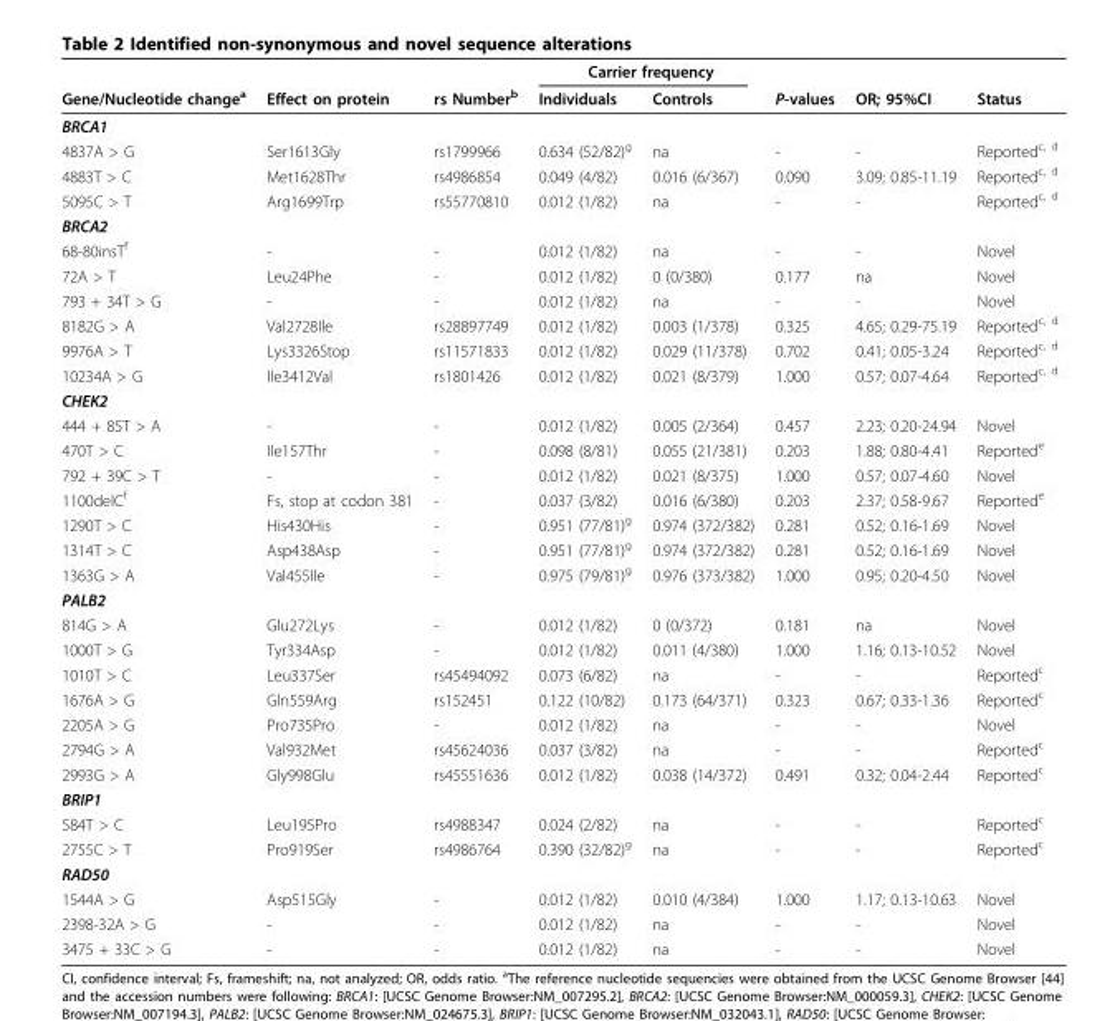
<table><thead><tr><td rowspan="2">Gene/Nucleotide change<sup>a</sup></td><td rowspan="2">Effect on protein</td><td rowspan="2">rs Number<sup>b</sup></td><td colspan="2">Carrier frequency</td><td rowspan="2">P-values</td><td rowspan="2">OR; 95%CI</td><td rowspan="2">Status</td></tr><tr><td>Individuals</td><td>Controls</td></tr></thead><tbody><tr><td colspan="8">BRCA1</td></tr><tr><td>4837A &gt; G</td><td>Ser1613Gly</td><td>rs1799966</td><td>0.634 (52/82)<sup>g</sup></td><td>na</td><td>-</td><td>-</td><td>Reported<sup>c, d</sup></td></tr><tr><td>4883T &gt; C</td><td>Met1628Thr</td><td>rs4986854</td><td>0.049 (4/82)</td><td>0.016 (6/367)</td><td>0.090</td><td>3.09; 0.85-11.19</td><td>Reported<sup>c, d</sup></td></tr><tr><td>5095C &gt; T</td><td>Arg1699Trp</td><td>rs55770810</td><td>0.012 (1/82)</td><td>na</td><td>-</td><td>-</td><td>Reported<sup>c, d</sup></td></tr><tr><td colspan="8">BRCA2</td></tr><tr><td>68-80insT<sup>f</sup></td><td>-</td><td>-</td><td>0.012 (1/82)</td><td>na</td><td>-</td><td>-</td><td>Novel</td></tr><tr><td>72A &gt; T</td><td>Leu24Phe</td><td>-</td><td>0.012 (1/82)</td><td>0 (0/380)</td><td>0.177</td><td>na</td><td>Novel</td></tr><tr><td>793 + 34T &gt; G</td><td>-</td><td>-</td><td>0.012 (1/82)</td><td>na</td><td>-</td><td>-</td><td>Novel</td></tr><tr><td>8182G &gt; A</td><td>Val2728Ile</td><td>rs28897749</td><td>0.012 (1/82)</td><td>0.003 (1/378)</td><td>0.325</td><td>4.65; 0.29-75.19</td><td>Reported<sup>c, d</sup></td></tr><tr><td>9976A &gt; T</td><td>Lys3326Stop</td><td>rs11571833</td><td>0.012 (1/82)</td><td>0.029 (11/378)</td><td>0.702</td><td>0.41; 0.05-3.24</td><td>Reported<sup>c, d</sup></td></tr><tr><td>10234A &gt; G</td><td>Ile3412Val</td><td>rs1801426</td><td>0.012 (1/82)</td><td>0.021 (8/379)</td><td>1.000</td><td>0.57; 0.07-4.64</td><td>Reported<sup>c, d</sup></td></tr><tr><td colspan="8">CHEK2</td></tr><tr><td>444 + 85T &gt; A</td><td>-</td><td>-</td><td>0.012 (1/82)</td><td>0.005 (2/364)</td><td>0.457</td><td>2.23; 0.20-24.94</td><td>Novel</td></tr><tr><td>470T &gt; C</td><td>Ile157Thr</td><td>-</td><td>0.098 (8/81)</td><td>0.055 (21/381)</td><td>0.203</td><td>1.88; 0.80-4.41</td><td>Reported<sup>e</sup></td></tr><tr><td>792 + 39C &gt; T</td><td>-</td><td>-</td><td>0.012 (1/82)</td><td>0.021 (8/375)</td><td>1.000</td><td>0.57; 0.07-4.60</td><td>Novel</td></tr><tr><td>1100delC<sup>f</sup></td><td>Fs, stop at codon 381</td><td>-</td><td>0.037 (3/82)</td><td>0.016 (6/380)</td><td>0.203</td><td>2.37; 0.58-9.67</td><td>Reported<sup>e</sup></td></tr><tr><td>1290T &gt; C</td><td>His430His</td><td>-</td><td>0.951 (77/81)<sup>g</sup></td><td>0.974 (372/382)</td><td>0.281</td><td>0.52; 0.16-1.69</td><td>Novel</td></tr><tr><td>1314T &gt; C</td><td>Asp438Asp</td><td>-</td><td>0.951 (77/81)<sup>g</sup></td><td>0.974 (372/382)</td><td>0.281</td><td>0.52; 0.16-1.69</td><td>Novel</td></tr><tr><td>1363G &gt; A</td><td>Val455Ile</td><td>-</td><td>0.975 (79/81)<sup>g</sup></td><td>0.976 (373/382)</td><td>1.000</td><td>0.95; 0.20-4.50</td><td>Novel</td></tr><tr><td colspan="8">PALB2</td></tr><tr><td>814G &gt; A</td><td>Glu272Lys</td><td>-</td><td>0.012 (1/82)</td><td>0 (0/372)</td><td>0.181</td><td>na</td><td>Novel</td></tr><tr><td>1000T &gt; G</td><td>Tyr334Asp</td><td>-</td><td>0.012 (1/82)</td><td>0.011 (4/380)</td><td>1.000</td><td>1.16; 0.13-10.52</td><td>Novel</td></tr><tr><td>1010T &gt; C</td><td>Leu337Ser</td><td>rs45494092</td><td>0.073 (6/82)</td><td>na</td><td>-</td><td>-</td><td>Reported<sup>c</sup></td></tr><tr><td>1676A &gt; G</td><td>Gln559Arg</td><td>rs152451</td><td>0.122 (10/82)</td><td>0.173 (64/371)</td><td>0.323</td><td>0.67; 0.33-1.36</td><td>Reported<sup>c</sup></td></tr><tr><td>2205A &gt; G</td><td>Pro735Pro</td><td>-</td><td>0.012 (1/82)</td><td>na</td><td>-</td><td>-</td><td>Novel</td></tr><tr><td>2794G &gt; A</td><td>Val932Met</td><td>rs45624036</td><td>0.037 (3/82)</td><td>na</td><td>-</td><td>-</td><td>Reported<sup>c</sup></td></tr><tr><td>2993G &gt; A</td><td>Gly998Glu</td><td>rs45551636</td><td>0.012 (1/82)</td><td>0.038 (14/372)</td><td>0.491</td><td>0.32; 0.04-2.44</td><td>Reported<sup>c</sup></td></tr><tr><td colspan="8">BRIP1</td></tr><tr><td>584T &gt; C</td><td>Leu195Pro</td><td>rs4988347</td><td>0.024 (2/82)</td><td>na</td><td>-</td><td>-</td><td>Reported<sup>c</sup></td></tr><tr><td>2755C &gt; T</td><td>Pro919Ser</td><td>rs4986764</td><td>0.390 (32/82)<sup>g</sup></td><td>na</td><td>-</td><td>-</td><td>Reported<sup>c</sup></td></tr><tr><td colspan="8">RAD50</td></tr><tr><td>1544A &gt; G</td><td>Asp515Gly</td><td>-</td><td>0.012 (1/82)</td><td>0.010 (4/384)</td><td>1.000</td><td>1.17; 0.13-10.63</td><td>Novel</td></tr><tr><td>2398-32A &gt; G</td><td>-</td><td>-</td><td>0.012 (1/82)</td><td>na</td><td>-</td><td>-</td><td>Novel</td></tr><tr><td>3475 + 33C &gt; G</td><td>-</td><td>-</td><td>0.012 (1/82)</td><td>na</td><td>-</td><td>-</td><td>Novel</td></tr></tbody></table>